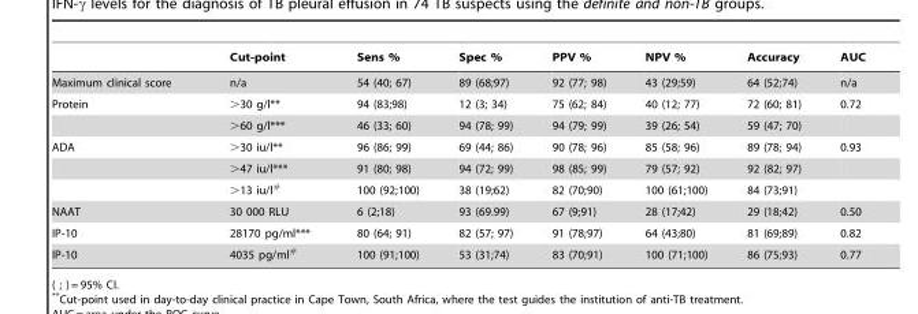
<table><thead><tr><td></td><td>Cut-point</td><td>Sens %</td><td>Spec %</td><td>PPV %</td><td>NPV %</td><td>Accuracy</td><td>AUC</td></tr></thead><tbody><tr><td>Maximum clinical score</td><td>n/a</td><td>54 (40; 67)</td><td>89 (68;97)</td><td>92 (77; 98)</td><td>43 (29;59)</td><td>64 (52;74)</td><td>n/a</td></tr><tr><td rowspan="2">Protein</td><td>&gt;30 g/l**</td><td>94 (83;98)</td><td>12 (3; 34)</td><td>75 (62; 84)</td><td>40 (12; 77)</td><td>72 (60; 81)</td><td>0.72</td></tr><tr><td>&gt;60 g/l***</td><td>46 (33; 60)</td><td>94 (78; 99)</td><td>94 (79; 99)</td><td>39 (26; 54)</td><td>59 (47; 70)</td><td></td></tr><tr><td rowspan="3">ADA</td><td>&gt;30 iu/l**</td><td>96 (86; 99)</td><td>69 (44; 86)</td><td>90 (78; 96)</td><td>85 (58; 96)</td><td>89 (78; 94)</td><td>0.93</td></tr><tr><td>&gt;47 iu/l***</td><td>91 (80; 98)</td><td>94 (72; 99)</td><td>98 (85; 99)</td><td>79 (57; 92)</td><td>92 (82; 97)</td><td></td></tr><tr><td>&gt;13 iu/l#</td><td>100 (92;100)</td><td>38 (19;62)</td><td>82 (70;90)</td><td>100 (61;100)</td><td>84 (73;91)</td><td></td></tr><tr><td>NAAT</td><td>30 000 RLU</td><td>6 (2;18)</td><td>93 (69.99)</td><td>67 (9;91)</td><td>28 (17;42)</td><td>29 (18;42)</td><td>0.50</td></tr><tr><td>IP-10</td><td>28170 pg/ml***</td><td>80 (64; 91)</td><td>82 (57; 97)</td><td>91 (78;97)</td><td>64 (43;80)</td><td>81 (69;89)</td><td>0.82</td></tr><tr><td>IP-10</td><td>4035 pg/ml#</td><td>100 (91;100)</td><td>53 (31;74)</td><td>83 (70;91)</td><td>100 (71;100)</td><td>86 (75;93)</td><td>0.77</td></tr></tbody></table>